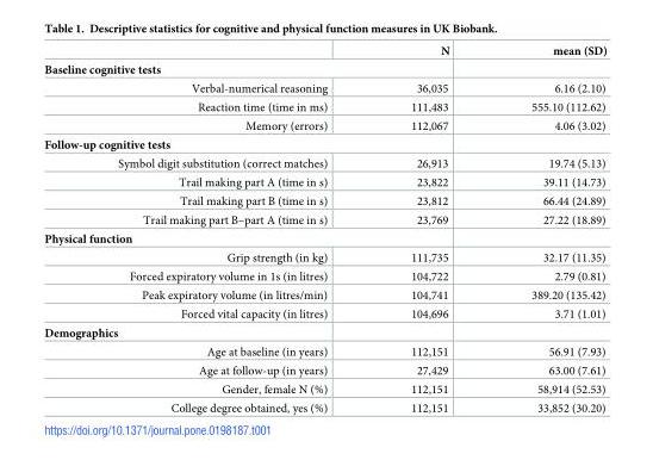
<table><thead><tr><td></td><td>N</td><td>mean (SD)</td></tr></thead><tbody><tr><td colspan="3">Baseline cognitive tests</td></tr><tr><td>Verbal-numerical reasoning</td><td>36,035</td><td>6.16 (2.10)</td></tr><tr><td>Reaction time (time in ms)</td><td>111,483</td><td>555.10 (112.62)</td></tr><tr><td>Memory (errors)</td><td>112,067</td><td>4.06 (3.02)</td></tr><tr><td colspan="3">Follow-up cognitive tests</td></tr><tr><td>Symbol digit substitution (correct matches)</td><td>26,913</td><td>19.74 (5.13)</td></tr><tr><td>Trail making part A (time in s)</td><td>23,822</td><td>39.11 (14.73)</td></tr><tr><td>Trail making part B (time in s)</td><td>23,812</td><td>66.44 (24.89)</td></tr><tr><td>Trail making part B–part A (time in s)</td><td>23,769</td><td>27.22 (18.89)</td></tr><tr><td colspan="3">Physical function</td></tr><tr><td>Grip strength (in kg)</td><td>111,735</td><td>32.17 (11.35)</td></tr><tr><td>Forced expiratory volume in 1s (in litres)</td><td>104,722</td><td>2.79 (0.81)</td></tr><tr><td>Peak expiratory volume (in litres/min)</td><td>104,741</td><td>389.20 (135.42)</td></tr><tr><td>Forced vital capacity (in litres)</td><td>104,696</td><td>3.71 (1.01)</td></tr><tr><td colspan="3">Demographics</td></tr><tr><td>Age at baseline (in years)</td><td>112,151</td><td>56.91 (7.93)</td></tr><tr><td>Age at follow-up (in years)</td><td>27,429</td><td>63.00 (7.61)</td></tr><tr><td>Gender, female N (%)</td><td>112,151</td><td>58,914 (52.53)</td></tr><tr><td>College degree obtained, yes (%)</td><td>112,151</td><td>33,852 (30.20)</td></tr></tbody></table>